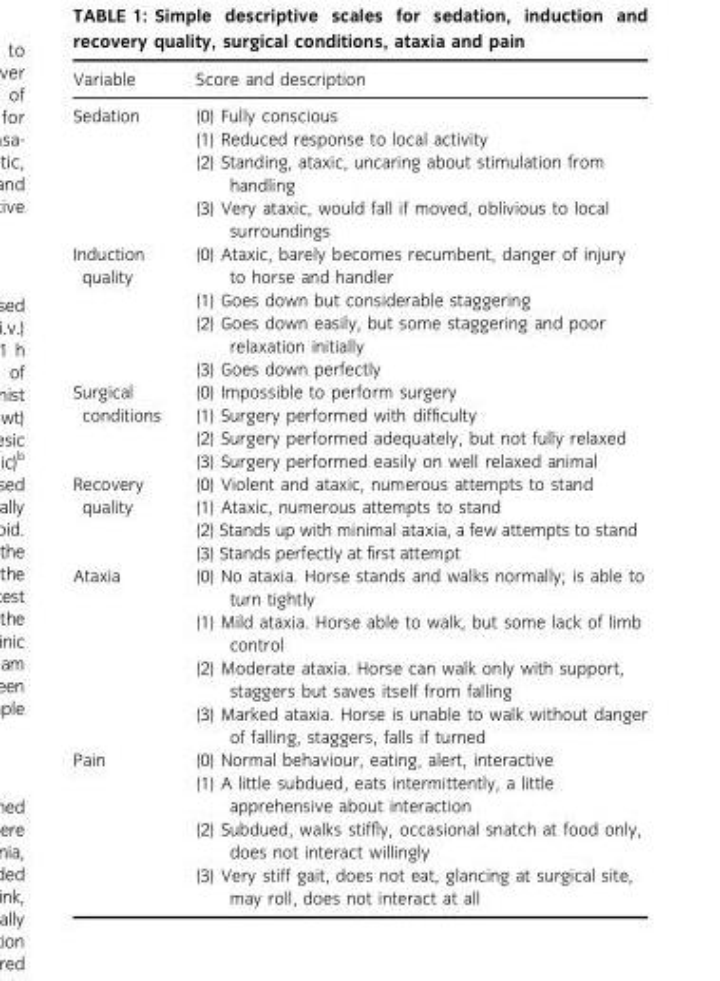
<table><thead><tr><td>Variable</td><td>Score and description</td></tr></thead><tbody><tr><td>Sedation</td><td>(0) Fully conscious (1) Reduced response to local activity (2) Standing, ataxic, uncaring about stimulation from handling (3) Very ataxic, would fall if moved, oblivious to local surroundings</td></tr><tr><td>Induction quality</td><td>(0) Ataxic, barely becomes recumbent, danger of injury to horse and handler (1) Goes down but considerable staggering (2) Goes down easily, but some staggering and poor relaxation initially (3) Goes down perfectly</td></tr><tr><td>Surgical conditions</td><td>(0) Impossible to perform surgery (1) Surgery performed with difficulty (2) Surgery performed adequately, but not fully relaxed (3) Surgery performed easily on well relaxed animal</td></tr><tr><td>Recovery quality</td><td>(0) Violent and ataxic, numerous attempts to stand (1) Ataxic, numerous attempts to stand (2) Stands up with minimal ataxia, a few attempts to stand (3) Stands perfectly at first attempt</td></tr><tr><td>Ataxia</td><td>(0) No ataxia. Horse stands and walks normally; is able to turn tightly (1) Mild ataxia. Horse able to walk, but some lack of limb control (2) Moderate ataxia. Horse can walk only with support, staggers but saves itself from falling (3) Marked ataxia. Horse is unable to walk without danger of falling, staggers, falls if turned</td></tr><tr><td>Pain</td><td>(0) Normal behaviour, eating, alert, interactive (1) A little subdued, eats intermittently, a little apprehensive about interaction (2) Subdued, walks stiffly, occasional snatch at food only, does not interact willingly (3) Very stiff gait, does not eat, glancing at surgical site, may roll, does not interact at all</td></tr></tbody></table>